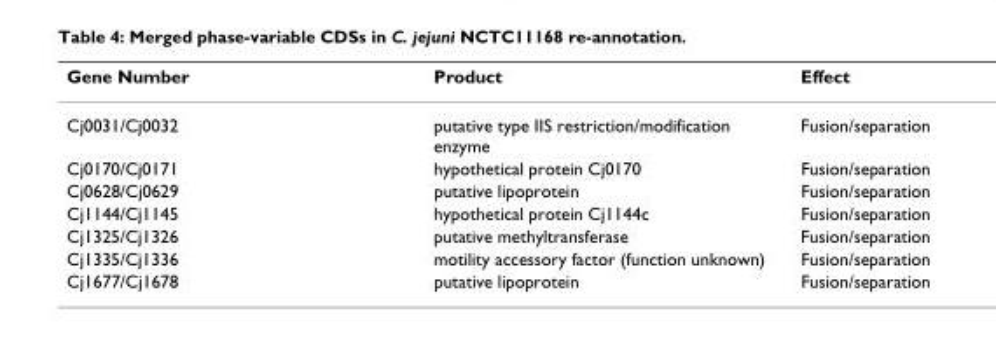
<table><thead><tr><td>Gene Number</td><td>Product</td><td>Effect</td></tr></thead><tbody><tr><td>Cj0031/Cj0032</td><td>putative type IIS restriction/modification enzyme</td><td>Fusion/separation</td></tr><tr><td>Cj0170/Cj0171</td><td>hypothetical protein Cj0170</td><td>Fusion/separation</td></tr><tr><td>Cj0628/Cj0629</td><td>putative lipoprotein</td><td>Fusion/separation</td></tr><tr><td>Cj1144/Cj1145</td><td>hypothetical protein Cj1144c</td><td>Fusion/separation</td></tr><tr><td>Cj1325/Cj1326</td><td>putative methyltransferase</td><td>Fusion/separation</td></tr><tr><td>Cj1335/Cj1336</td><td>motility accessory factor (function unknown)</td><td>Fusion/separation</td></tr><tr><td>Cj1677/Cj1678</td><td>putative lipoprotein</td><td>Fusion/separation</td></tr></tbody></table>